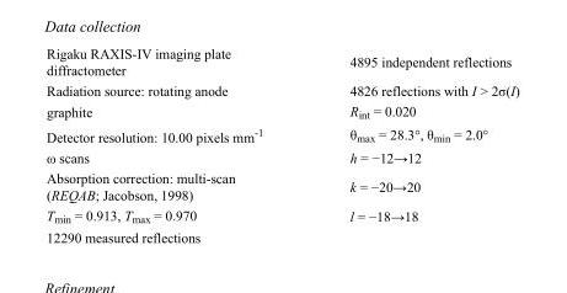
<table><tbody><tr><td>Rigaku RAXIS-IV imaging plate diffractometer</td><td>4895 independent reflections</td></tr><tr><td>Radiation source: rotating anode</td><td>4826 reflections with I &gt; 2σ(I)</td></tr><tr><td>graphite</td><td>R<sub>int</sub> = 0.020</td></tr><tr><td>Detector resolution: 10.00 pixels mm<sup>-1</sup></td><td>θ<sub>max</sub> = 28.3°, θ<sub>min</sub> = 2.0°</td></tr><tr><td>ω scans</td><td>h = −12→12</td></tr><tr><td>Absorption correction: multi-scan (REQAB; Jacobson, 1998)</td><td>k = −20→20</td></tr><tr><td>T<sub>min</sub> = 0.913, T<sub>max</sub> = 0.970</td><td>l = −18→18</td></tr><tr><td>12290 measured reflections</td><td></td></tr></tbody></table>